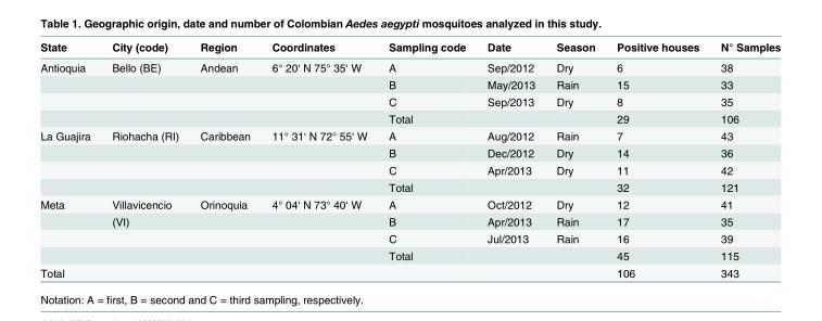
<table><thead><tr><td>State</td><td>City (code)</td><td>Region</td><td>Coordinates</td><td>Sampling code</td><td>Date</td><td>Season</td><td>Positive houses</td><td>N° Samples</td></tr></thead><tbody><tr><td rowspan="4">Antioquia</td><td>Bello (BE)</td><td>Andean</td><td>6° 20‘ N 75° 35‘ W</td><td>A</td><td>Sep/2012</td><td>Dry</td><td>6</td><td>38</td></tr><tr><td></td><td></td><td></td><td>B</td><td>May/2013</td><td>Rain</td><td>15</td><td>33</td></tr><tr><td></td><td></td><td></td><td>C</td><td>Sep/2013</td><td>Dry</td><td>8</td><td>35</td></tr><tr><td></td><td></td><td></td><td>Total</td><td></td><td></td><td>29</td><td>106</td></tr><tr><td rowspan="4">La Guajira</td><td>Riohacha (RI)</td><td>Caribbean</td><td>11° 31‘ N 72° 55‘ W</td><td>A</td><td>Aug/2012</td><td>Rain</td><td>7</td><td>43</td></tr><tr><td></td><td></td><td></td><td>B</td><td>Dec/2012</td><td>Dry</td><td>14</td><td>36</td></tr><tr><td></td><td></td><td></td><td>C</td><td>Apr/2013</td><td>Dry</td><td>11</td><td>42</td></tr><tr><td></td><td></td><td></td><td>Total</td><td></td><td></td><td>32</td><td>121</td></tr><tr><td rowspan="4">Meta</td><td>Villavicencio</td><td>Orinoquia</td><td>4° 04‘ N 73° 40‘ W</td><td>A</td><td>Oct/2012</td><td>Dry</td><td>12</td><td>41</td></tr><tr><td>(VI)</td><td></td><td></td><td>B</td><td>Apr/2013</td><td>Rain</td><td>17</td><td>35</td></tr><tr><td></td><td></td><td></td><td>C</td><td>Jul/2013</td><td>Rain</td><td>16</td><td>39</td></tr><tr><td></td><td></td><td></td><td>Total</td><td></td><td></td><td>45</td><td>115</td></tr><tr><td>Total</td><td></td><td></td><td></td><td></td><td></td><td></td><td>106</td><td>343</td></tr></tbody></table>